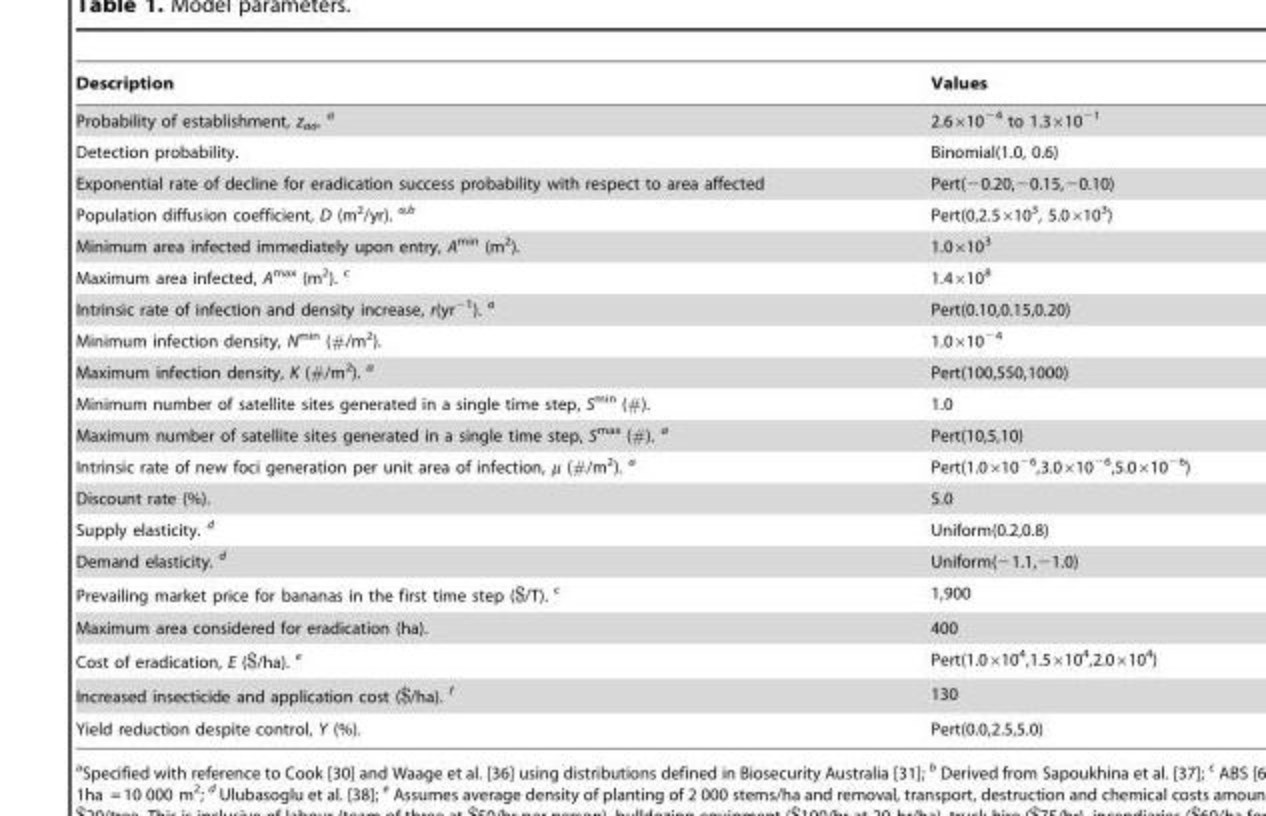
<table><thead><tr><td>Description</td><td>Values</td></tr></thead><tbody><tr><td>Probability of establishment, z<sub>aa</sub>. a</td><td>2.6×10<sup>−4</sup> to 1.3×10<sup>−1</sup></td></tr><tr><td>Detection probability.</td><td>Binomial(1.0, 0.6)</td></tr><tr><td>Exponential rate of decline for eradication success probability with respect to area affected</td><td>Pert(−0.20,−0.15,−0.10)</td></tr><tr><td>Population diffusion coefficient, D (m<sup>2</sup>/yr). a,b</td><td>Pert(0,2.5×10<sup>3</sup>, 5.0×10<sup>3</sup>)</td></tr><tr><td>Minimum area infected immediately upon entry, A<sup>min</sup> (m<sup>2</sup>).</td><td>1.0×10<sup>3</sup></td></tr><tr><td>Maximum area infected, A<sup>max</sup> (m<sup>2</sup>). <sup>c</sup></td><td>1.4×10<sup>8</sup></td></tr><tr><td>Intrinsic rate of infection and density increase, r(yr<sup>−1</sup>). a</td><td>Pert(0.10,0.15,0.20)</td></tr><tr><td>Minimum infection density, N<sup>min</sup> (#/m<sup>2</sup>).</td><td>1.0×10<sup>−4</sup></td></tr><tr><td>Maximum infection density, K (#/m<sup>2</sup>). a</td><td>Pert(100,550,1000)</td></tr><tr><td>Minimum number of satellite sites generated in a single time step, S<sup>min</sup> (#).</td><td>1.0</td></tr><tr><td>Maximum number of satellite sites generated in a single time step, S<sup>max</sup> (#). a</td><td>Pert(10,5,10)</td></tr><tr><td>Intrinsic rate of new foci generation per unit area of infection, µ (#/m<sup>2</sup>). a</td><td>Pert(1.0×10<sup>−6</sup>,3.0×10<sup>−6</sup>,5.0×10<sup>−6</sup>)</td></tr><tr><td>Discount rate (%).</td><td>5.0</td></tr><tr><td>Supply elasticity. <sup>d</sup></td><td>Uniform(0.2,0.8)</td></tr><tr><td>Demand elasticity. <sup>d</sup></td><td>Uniform(−1.1,−1.0)</td></tr><tr><td>Prevailing market price for bananas in the first time step ($/T). <sup>c</sup></td><td>1,900</td></tr><tr><td>Maximum area considered for eradication (ha).</td><td>400</td></tr><tr><td>Cost of eradication, E ($/ha). <sup>e</sup></td><td>Pert(1.0×10<sup>4</sup>,1.5×10<sup>4</sup>,2.0×10<sup>4</sup>)</td></tr><tr><td>Increased insecticide and application cost ($/ha). <sup>f</sup></td><td>130</td></tr><tr><td>Yield reduction despite control, Y (%).</td><td>Pert(0.0,2.5,5.0)</td></tr></tbody></table>